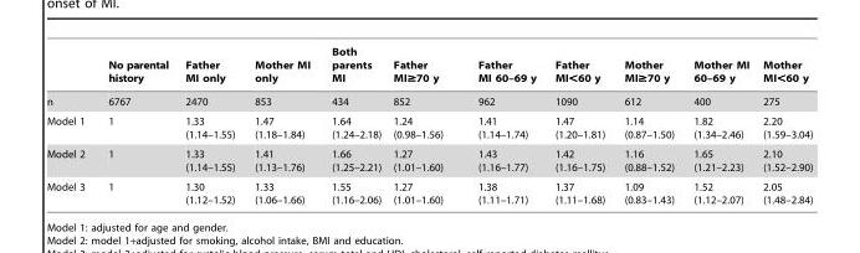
<table><thead><tr><td></td><td>No parental history</td><td>Father MI only</td><td>Mother MI only</td><td>Both parents MI</td><td>Father MI≥70 y</td><td>Father MI 60–69 y</td><td>Father MI&lt;60 y</td><td>Mother MI≥70 y</td><td>Mother MI 60–69 y</td><td>Mother MI&lt;60 y</td></tr></thead><tbody><tr><td>n</td><td>6767</td><td>2470</td><td>853</td><td>434</td><td>852</td><td>962</td><td>1090</td><td>612</td><td>400</td><td>275</td></tr><tr><td>Model 1</td><td>1</td><td>1.33 (1.14–1.55)</td><td>1.47 (1.18–1.84)</td><td>1.64 (1.24–2.18)</td><td>1.24 (0.98–1.56)</td><td>1.41 (1.14–1.74)</td><td>1.47 (1.20–1.81)</td><td>1.14 (0.87–1.50)</td><td>1.82 (1.34–2.46)</td><td>2.20 (1.59–3.04)</td></tr><tr><td>Model 2</td><td>1</td><td>1.33 (1.14–1.55)</td><td>1.41 (1.13–1.76)</td><td>1.66 (1.25–2.21)</td><td>1.27 (1.01–1.60)</td><td>1.43 (1.16–1.77)</td><td>1.42 (1.16–1.75)</td><td>1.16 (0.88–1.52)</td><td>1.65 (1.21–2.23)</td><td>2.10 (1.52–2.90)</td></tr><tr><td>Model 3</td><td>1</td><td>1.30 (1.12–1.52)</td><td>1.33 (1.06–1.66)</td><td>1.55 (1.16–2.06)</td><td>1.27 (1.01–1.60)</td><td>1.38 (1.11–1.71)</td><td>1.37 (1.11–1.68)</td><td>1.09 (0.83–1.43)</td><td>1.52 (1.12–2.07)</td><td>2.05 (1.48–2.84)</td></tr></tbody></table>